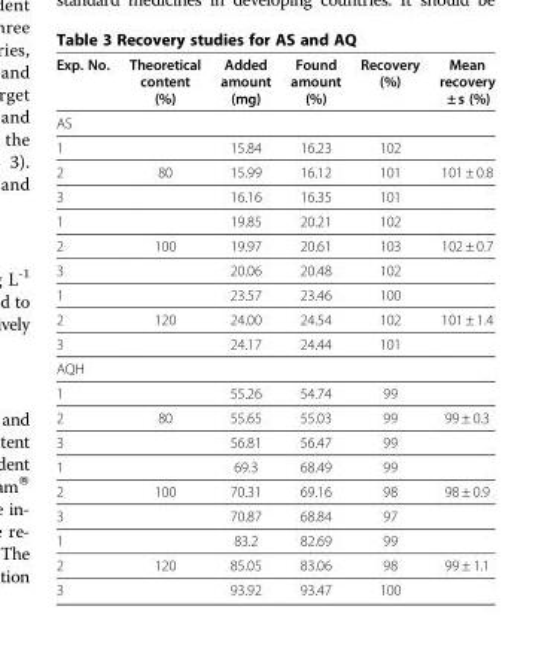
<table><thead><tr><td>Exp. No.</td><td>Theoretical content (%)</td><td>Added amount (mg)</td><td>Found amount (%)</td><td>Recovery (%)</td><td>Mean recovery ± s (%)</td></tr></thead><tbody><tr><td colspan="6">AS</td></tr><tr><td>1</td><td></td><td>15.84</td><td>16.23</td><td>102</td><td></td></tr><tr><td>2</td><td>80</td><td>15.99</td><td>16.12</td><td>101</td><td>101 ± 0.8</td></tr><tr><td>3</td><td></td><td>16.16</td><td>16.35</td><td>101</td><td></td></tr><tr><td>1</td><td></td><td>19.85</td><td>20.21</td><td>102</td><td></td></tr><tr><td>2</td><td>100</td><td>19.97</td><td>20.61</td><td>103</td><td>102 ± 0.7</td></tr><tr><td>3</td><td></td><td>20.06</td><td>20.48</td><td>102</td><td></td></tr><tr><td>1</td><td></td><td>23.57</td><td>23.46</td><td>100</td><td></td></tr><tr><td>2</td><td>120</td><td>24.00</td><td>24.54</td><td>102</td><td>101 ± 1.4</td></tr><tr><td>3</td><td></td><td>24.17</td><td>24.44</td><td>101</td><td></td></tr><tr><td colspan="6">AQH</td></tr><tr><td>1</td><td></td><td>55.26</td><td>54.74</td><td>99</td><td></td></tr><tr><td>2</td><td>80</td><td>55.65</td><td>55.03</td><td>99</td><td>99 ± 0.3</td></tr><tr><td>3</td><td></td><td>56.81</td><td>56.47</td><td>99</td><td></td></tr><tr><td>1</td><td></td><td>69.3</td><td>68.49</td><td>99</td><td></td></tr><tr><td>2</td><td>100</td><td>70.31</td><td>69.16</td><td>98</td><td>98 ± 0.9</td></tr><tr><td>3</td><td></td><td>70.87</td><td>68.84</td><td>97</td><td></td></tr><tr><td>1</td><td></td><td>83.2</td><td>82.69</td><td>99</td><td></td></tr><tr><td>2</td><td>120</td><td>85.05</td><td>83.06</td><td>98</td><td>99 ± 1.1</td></tr><tr><td>3</td><td></td><td>93.92</td><td>93.47</td><td>100</td><td></td></tr></tbody></table>